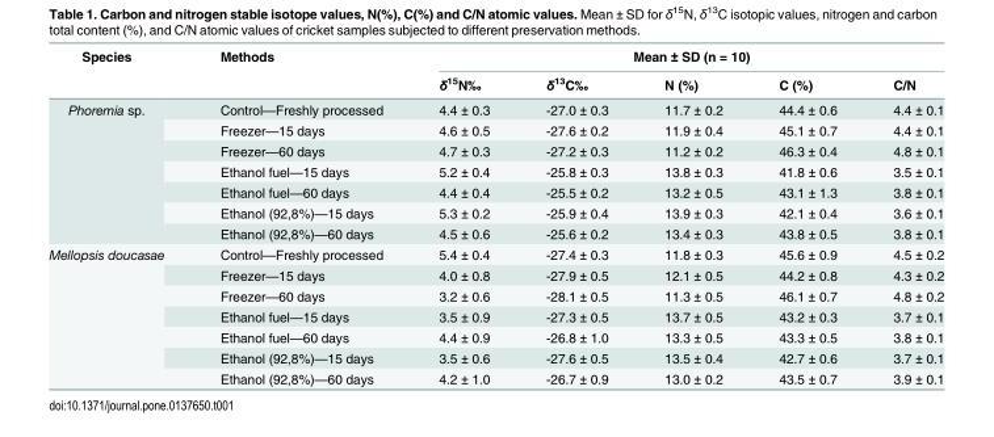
<table><thead><tr><td rowspan="2">Species</td><td rowspan="2">Methods</td><td colspan="5">Mean ± SD (n = 10)</td></tr><tr><td>δ<sup>15</sup>N‰</td><td>δ<sup>13</sup>C‰</td><td>N (%)</td><td>C (%)</td><td>C/N</td></tr></thead><tbody><tr><td rowspan="7">Phoremia sp.</td><td>Control—Freshly processed</td><td>4.4 ± 0.3</td><td>-27.0 ± 0.3</td><td>11.7 ± 0.2</td><td>44.4 ± 0.6</td><td>4.4 ± 0.1</td></tr><tr><td>Freezer—15 days</td><td>4.6 ± 0.5</td><td>-27.6 ± 0.2</td><td>11.9 ± 0.4</td><td>45.1 ± 0.7</td><td>4.4 ± 0.1</td></tr><tr><td>Freezer—60 days</td><td>4.7 ± 0.3</td><td>-27.2 ± 0.3</td><td>11.2 ± 0.2</td><td>46.3 ± 0.4</td><td>4.8 ± 0.1</td></tr><tr><td>Ethanol fuel—15 days</td><td>5.2 ± 0.4</td><td>-25.8 ± 0.3</td><td>13.8 ± 0.3</td><td>41.8 ± 0.6</td><td>3.5 ± 0.1</td></tr><tr><td>Ethanol fuel—60 days</td><td>4.4 ± 0.4</td><td>-25.5 ± 0.2</td><td>13.2 ± 0.5</td><td>43.1 ± 1.3</td><td>3.8 ± 0.1</td></tr><tr><td>Ethanol (92,8%)—15 days</td><td>5.3 ± 0.2</td><td>-25.9 ± 0.4</td><td>13.9 ± 0.3</td><td>42.1 ± 0.4</td><td>3.6 ± 0.1</td></tr><tr><td>Ethanol (92,8%)—60 days</td><td>4.5 ± 0.6</td><td>-25.6 ± 0.2</td><td>13.4 ± 0.3</td><td>43.8 ± 0.5</td><td>3.8 ± 0.1</td></tr><tr><td rowspan="7">Mellopsis doucasae</td><td>Control—Freshly processed</td><td>5.4 ± 0.4</td><td>-27.4 ± 0.3</td><td>11.8 ± 0.3</td><td>45.6 ± 0.9</td><td>4.5 ± 0.2</td></tr><tr><td>Freezer—15 days</td><td>4.0 ± 0.8</td><td>-27.9 ± 0.5</td><td>12.1 ± 0.5</td><td>44.2 ± 0.8</td><td>4.3 ± 0.2</td></tr><tr><td>Freezer—60 days</td><td>3.2 ± 0.6</td><td>-28.1 ± 0.5</td><td>11.3 ± 0.5</td><td>46.1 ± 0.7</td><td>4.8 ± 0.2</td></tr><tr><td>Ethanol fuel—15 days</td><td>3.5 ± 0.9</td><td>-27.3 ± 0.5</td><td>13.7 ± 0.5</td><td>43.2 ± 0.3</td><td>3.7 ± 0.1</td></tr><tr><td>Ethanol fuel—60 days</td><td>4.4 ± 0.9</td><td>-26.8 ± 1.0</td><td>13.3 ± 0.5</td><td>43.3 ± 0.5</td><td>3.8 ± 0.1</td></tr><tr><td>Ethanol (92,8%)—15 days</td><td>3.5 ± 0.6</td><td>-27.6 ± 0.5</td><td>13.5 ± 0.4</td><td>42.7 ± 0.6</td><td>3.7 ± 0.1</td></tr><tr><td>Ethanol (92,8%)—60 days</td><td>4.2 ± 1.0</td><td>-26.7 ± 0.9</td><td>13.0 ± 0.2</td><td>43.5 ± 0.7</td><td>3.9 ± 0.1</td></tr></tbody></table>